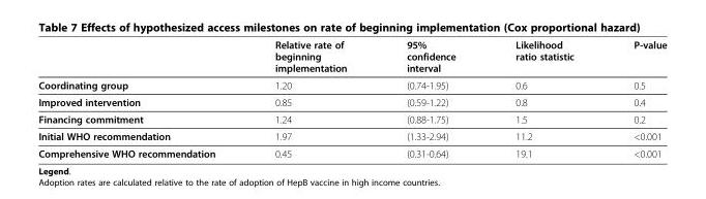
<table><thead><tr><td></td><td>Relative rate of beginning implementation</td><td>95% confidence interval</td><td>Likelihood ratio statistic</td><td>P-value</td></tr></thead><tbody><tr><td>Coordinating group</td><td>1.20</td><td>(0.74-1.95)</td><td>0.6</td><td>0.5</td></tr><tr><td>Improved intervention</td><td>0.85</td><td>(0.59-1.22)</td><td>0.8</td><td>0.4</td></tr><tr><td>Financing commitment</td><td>1.24</td><td>(0.88-1.75)</td><td>1.5</td><td>0.2</td></tr><tr><td>Initial WHO recommendation</td><td>1.97</td><td>(1.33-2.94)</td><td>11.2</td><td>&lt;0.001</td></tr><tr><td>Comprehensive WHO recommendation</td><td>0.45</td><td>(0.31-0.64)</td><td>19.1</td><td>&lt;0.001</td></tr></tbody></table>